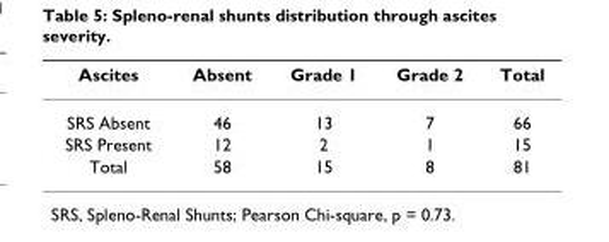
<table><thead><tr><td>Ascites</td><td>Absent</td><td>Grade 1</td><td>Grade 2</td><td>Total</td></tr></thead><tbody><tr><td>SRS Absent</td><td>46</td><td>13</td><td>7</td><td>66</td></tr><tr><td>SRS Present</td><td>12</td><td>2</td><td>1</td><td>15</td></tr><tr><td>Total</td><td>58</td><td>15</td><td>8</td><td>81</td></tr></tbody></table>